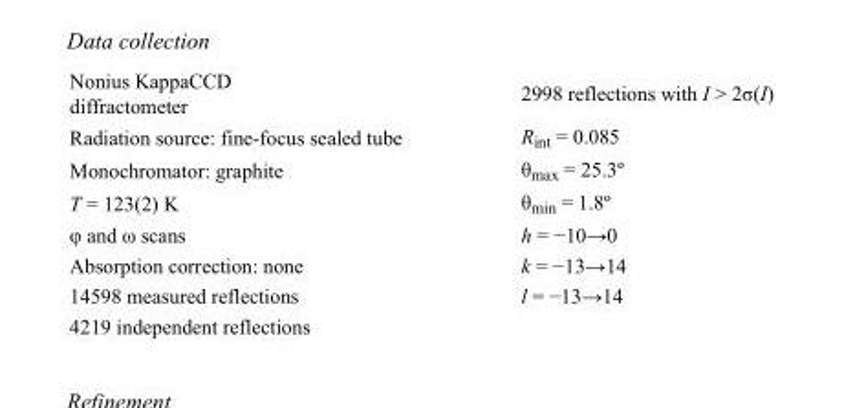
<table><tbody><tr><td>Nonius KappaCCD diffractometer</td><td>2998 reflections with I &gt; 2σ(I)</td></tr><tr><td>Radiation source: fine-focus sealed tube</td><td>R<sub>int</sub> = 0.085</td></tr><tr><td>Monochromator: graphite</td><td>θ<sub>max</sub> = 25.3º</td></tr><tr><td>T = 123(2) K</td><td>θ<sub>min</sub> = 1.8º</td></tr><tr><td>φ and ω scans</td><td>h = −10→0</td></tr><tr><td>Absorption correction: none</td><td>k = −13→14</td></tr><tr><td>14598 measured reflections</td><td>l = −13→14</td></tr><tr><td>4219 independent reflections</td><td></td></tr></tbody></table>